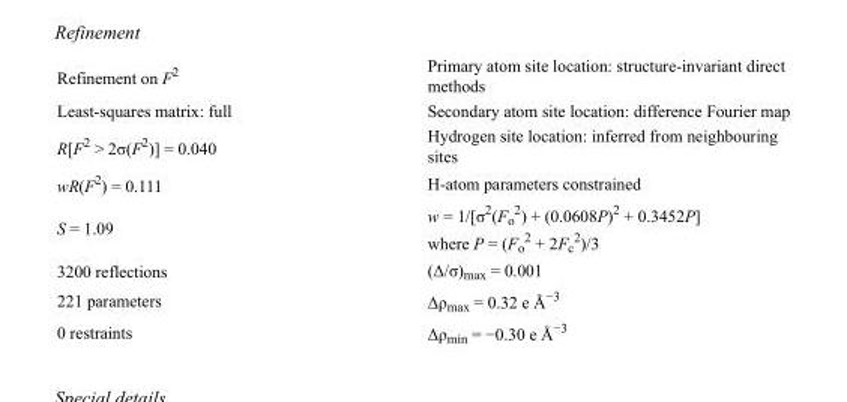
<table><tbody><tr><td>Refinement on F<sup>2</sup></td><td>Primary atom site location: structure-invariant direct methods</td></tr><tr><td>Least-squares matrix: full</td><td>Secondary atom site location: difference Fourier map</td></tr><tr><td>R[F<sup>2</sup> &gt; 2σ(F<sup>2</sup>)] = 0.040</td><td>Hydrogen site location: inferred from neighbouring sites</td></tr><tr><td>wR(F<sup>2</sup>) = 0.111</td><td>H-atom parameters constrained</td></tr><tr><td>S = 1.09</td><td>w = 1/[σ<sup>2</sup>(F<sub>o</sub> <sup>2</sup>) + (0.0608P)<sup>2</sup> + 0.3452P] where P = (F<sub>o</sub> <sup>2</sup> + 2F<sub>c</sub> <sup>2</sup>)/3</td></tr><tr><td>3200 reflections</td><td>(Δ/σ)<sub>max</sub> = 0.001</td></tr><tr><td>221 parameters</td><td>Δρ<sub>max</sub> = 0.32 e Å<sup>−3</sup></td></tr><tr><td>0 restraints</td><td>Δρ<sub>min</sub> = −0.30 e Å<sup>−3</sup></td></tr></tbody></table>